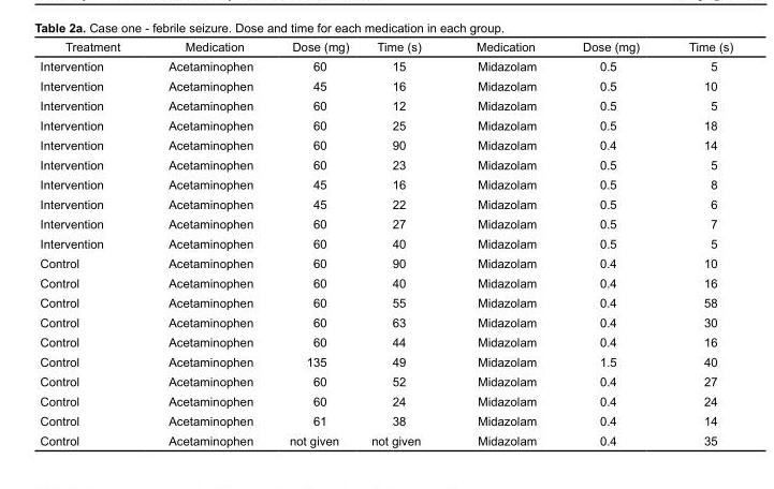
<table><thead><tr><td>Treatment</td><td>Medication</td><td>Dose (mg)</td><td>Time (s)</td><td>Medication</td><td>Dose (mg)</td><td>Time (s)</td></tr></thead><tbody><tr><td>Intervention</td><td>Acetaminophen</td><td>60</td><td>15</td><td>Midazolam</td><td>0.5</td><td>5</td></tr><tr><td>Intervention</td><td>Acetaminophen</td><td>45</td><td>16</td><td>Midazolam</td><td>0.5</td><td>10</td></tr><tr><td>Intervention</td><td>Acetaminophen</td><td>60</td><td>12</td><td>Midazolam</td><td>0.5</td><td>5</td></tr><tr><td>Intervention</td><td>Acetaminophen</td><td>60</td><td>25</td><td>Midazolam</td><td>0.5</td><td>18</td></tr><tr><td>Intervention</td><td>Acetaminophen</td><td>60</td><td>90</td><td>Midazolam</td><td>0.4</td><td>14</td></tr><tr><td>Intervention</td><td>Acetaminophen</td><td>60</td><td>23</td><td>Midazolam</td><td>0.5</td><td>5</td></tr><tr><td>Intervention</td><td>Acetaminophen</td><td>45</td><td>16</td><td>Midazolam</td><td>0.5</td><td>8</td></tr><tr><td>Intervention</td><td>Acetaminophen</td><td>45</td><td>22</td><td>Midazolam</td><td>0.5</td><td>6</td></tr><tr><td>Intervention</td><td>Acetaminophen</td><td>60</td><td>27</td><td>Midazolam</td><td>0.5</td><td>7</td></tr><tr><td>Intervention</td><td>Acetaminophen</td><td>60</td><td>40</td><td>Midazolam</td><td>0.5</td><td>5</td></tr><tr><td>Control</td><td>Acetaminophen</td><td>60</td><td>90</td><td>Midazolam</td><td>0.4</td><td>10</td></tr><tr><td>Control</td><td>Acetaminophen</td><td>60</td><td>40</td><td>Midazolam</td><td>0.4</td><td>16</td></tr><tr><td>Control</td><td>Acetaminophen</td><td>60</td><td>55</td><td>Midazolam</td><td>0.4</td><td>58</td></tr><tr><td>Control</td><td>Acetaminophen</td><td>60</td><td>63</td><td>Midazolam</td><td>0.4</td><td>30</td></tr><tr><td>Control</td><td>Acetaminophen</td><td>60</td><td>44</td><td>Midazolam</td><td>0.4</td><td>16</td></tr><tr><td>Control</td><td>Acetaminophen</td><td>135</td><td>49</td><td>Midazolam</td><td>1.5</td><td>40</td></tr><tr><td>Control</td><td>Acetaminophen</td><td>60</td><td>52</td><td>Midazolam</td><td>0.4</td><td>27</td></tr><tr><td>Control</td><td>Acetaminophen</td><td>60</td><td>24</td><td>Midazolam</td><td>0.4</td><td>24</td></tr><tr><td>Control</td><td>Acetaminophen</td><td>61</td><td>38</td><td>Midazolam</td><td>0.4</td><td>14</td></tr><tr><td>Control</td><td>Acetaminophen</td><td>not given</td><td>not given</td><td>Midazolam</td><td>0.4</td><td>35</td></tr></tbody></table>